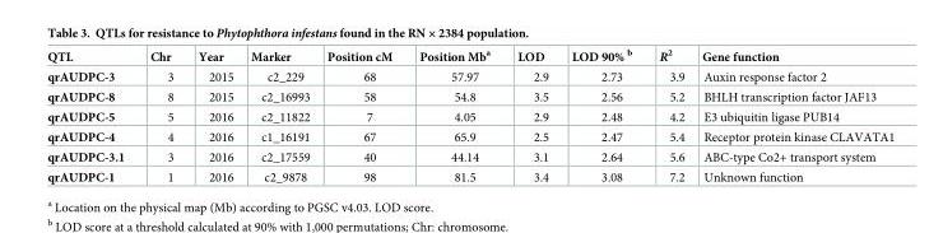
<table><thead><tr><td>QTL</td><td>Chr</td><td>Year</td><td>Marker</td><td>Position cM</td><td>Position Mb<sup>a</sup></td><td>LOD</td><td>LOD 90% <sup>b</sup></td><td>R<sup>2</sup></td><td>Gene function</td></tr></thead><tbody><tr><td>qrAUDPC-3</td><td>3</td><td>2015</td><td>c2_229</td><td>68</td><td>57.97</td><td>2.9</td><td>2.73</td><td>3.9</td><td>Auxin response factor 2</td></tr><tr><td>qrAUDPC-8</td><td>8</td><td>2015</td><td>c2_16993</td><td>58</td><td>54.8</td><td>3.5</td><td>2.56</td><td>5.2</td><td>BHLH transcription factor JAF13</td></tr><tr><td>qrAUDPC-5</td><td>5</td><td>2016</td><td>c2_11822</td><td>7</td><td>4.05</td><td>2.9</td><td>2.48</td><td>4.2</td><td>E3 ubiquitin ligase PUB14</td></tr><tr><td>qrAUDPC-4</td><td>4</td><td>2016</td><td>c1_16191</td><td>67</td><td>65.9</td><td>2.5</td><td>2.47</td><td>5.4</td><td>Receptor protein kinase CLAVATA1</td></tr><tr><td>qrAUDPC-3.1</td><td>3</td><td>2016</td><td>c2_17559</td><td>40</td><td>44.14</td><td>3.1</td><td>2.64</td><td>5.6</td><td>ABC-type Co2+ transport system</td></tr><tr><td>qrAUDPC-1</td><td>1</td><td>2016</td><td>c2_9878</td><td>98</td><td>81.5</td><td>3.4</td><td>3.08</td><td>7.2</td><td>Unknown function</td></tr></tbody></table>